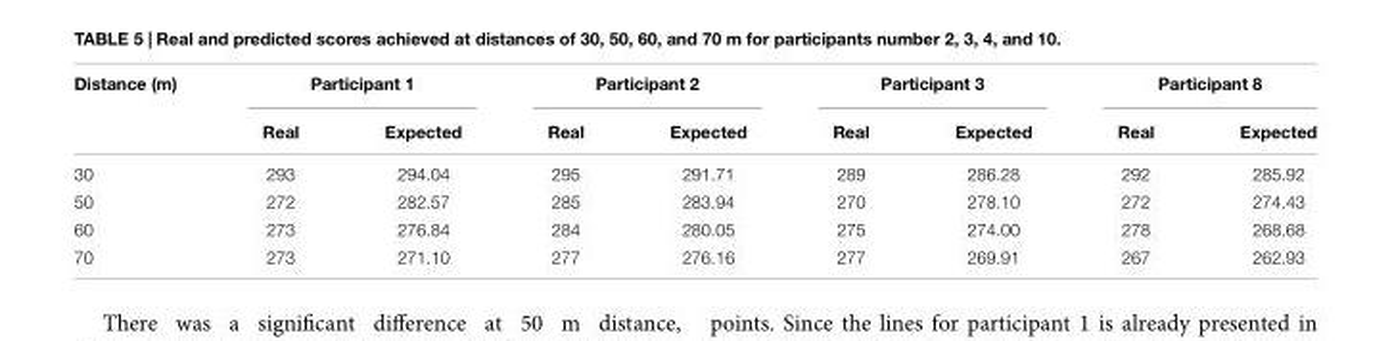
<table><thead><tr><td rowspan="2">Distance (m)</td><td colspan="2">Participant 1</td><td colspan="2">Participant 2</td><td colspan="2">Participant 3</td><td colspan="2">Participant 8</td></tr><tr><td>Real</td><td>Expected</td><td>Real</td><td>Expected</td><td>Real</td><td>Expected</td><td>Real</td><td>Expected</td></tr></thead><tbody><tr><td>30</td><td>293</td><td>294.04</td><td>295</td><td>291.71</td><td>289</td><td>286.28</td><td>292</td><td>285.92</td></tr><tr><td>50</td><td>272</td><td>282.57</td><td>285</td><td>283.94</td><td>270</td><td>278.10</td><td>272</td><td>274.43</td></tr><tr><td>60</td><td>273</td><td>276.84</td><td>284</td><td>280.05</td><td>275</td><td>274.00</td><td>278</td><td>268.68</td></tr><tr><td>70</td><td>273</td><td>271.10</td><td>277</td><td>276.16</td><td>277</td><td>269.91</td><td>267</td><td>262.93</td></tr></tbody></table>